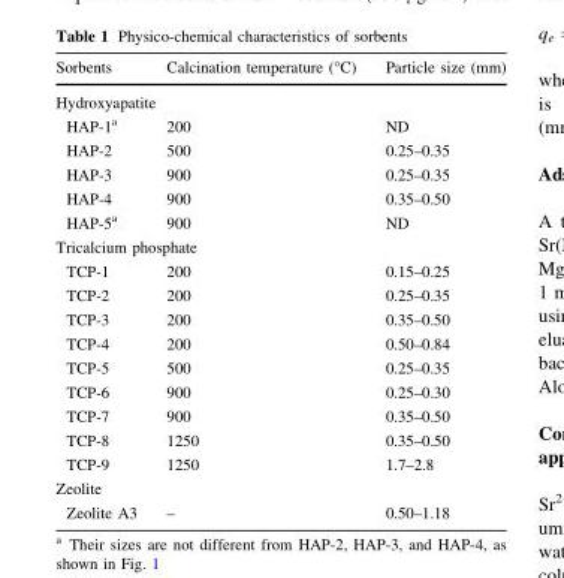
<table><thead><tr><td>Sorbents</td><td>Calcination temperature (°C)</td><td>Particle size (mm)</td></tr></thead><tbody><tr><td colspan="3">Hydroxyapatite</td></tr><tr><td>HAP-1<sup>a</sup></td><td>200</td><td>ND</td></tr><tr><td>HAP-2</td><td>500</td><td>0.25–0.35</td></tr><tr><td>HAP-3</td><td>900</td><td>0.25–0.35</td></tr><tr><td>HAP-4</td><td>900</td><td>0.35–0.50</td></tr><tr><td>HAP-5<sup>a</sup></td><td>900</td><td>ND</td></tr><tr><td colspan="3">Tricalcium phosphate</td></tr><tr><td>TCP-1</td><td>200</td><td>0.15–0.25</td></tr><tr><td>TCP-2</td><td>200</td><td>0.25–0.35</td></tr><tr><td>TCP-3</td><td>200</td><td>0.35–0.50</td></tr><tr><td>TCP-4</td><td>200</td><td>0.50–0.84</td></tr><tr><td>TCP-5</td><td>500</td><td>0.25–0.35</td></tr><tr><td>TCP-6</td><td>900</td><td>0.25–0.30</td></tr><tr><td>TCP-7</td><td>900</td><td>0.35–0.50</td></tr><tr><td>TCP-8</td><td>1250</td><td>0.35–0.50</td></tr><tr><td>TCP-9</td><td>1250</td><td>1.7–2.8</td></tr><tr><td colspan="3">Zeolite</td></tr><tr><td>Zeolite A3</td><td>–</td><td>0.50–1.18</td></tr></tbody></table>